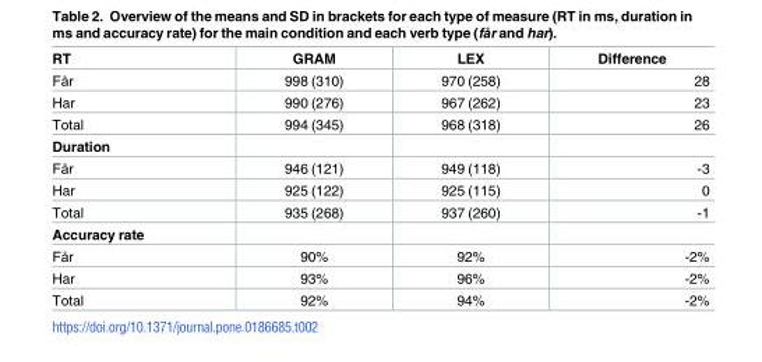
<table><thead><tr><td>RT</td><td>GRAM</td><td>LEX</td><td>Difference</td></tr></thead><tbody><tr><td>Får</td><td>998 (310)</td><td>970 (258)</td><td>28</td></tr><tr><td>Har</td><td>990 (276)</td><td>967 (262)</td><td>23</td></tr><tr><td>Total</td><td>994 (345)</td><td>968 (318)</td><td>26</td></tr><tr><td colspan="4">Duration</td></tr><tr><td>Får</td><td>946 (121)</td><td>949 (118)</td><td>-3</td></tr><tr><td>Har</td><td>925 (122)</td><td>925 (115)</td><td>0</td></tr><tr><td>Total</td><td>935 (268)</td><td>937 (260)</td><td>-1</td></tr><tr><td colspan="4">Accuracy rate</td></tr><tr><td>Får</td><td>90%</td><td>92%</td><td>-2%</td></tr><tr><td>Har</td><td>93%</td><td>96%</td><td>-2%</td></tr><tr><td>Total</td><td>92%</td><td>94%</td><td>-2%</td></tr></tbody></table>